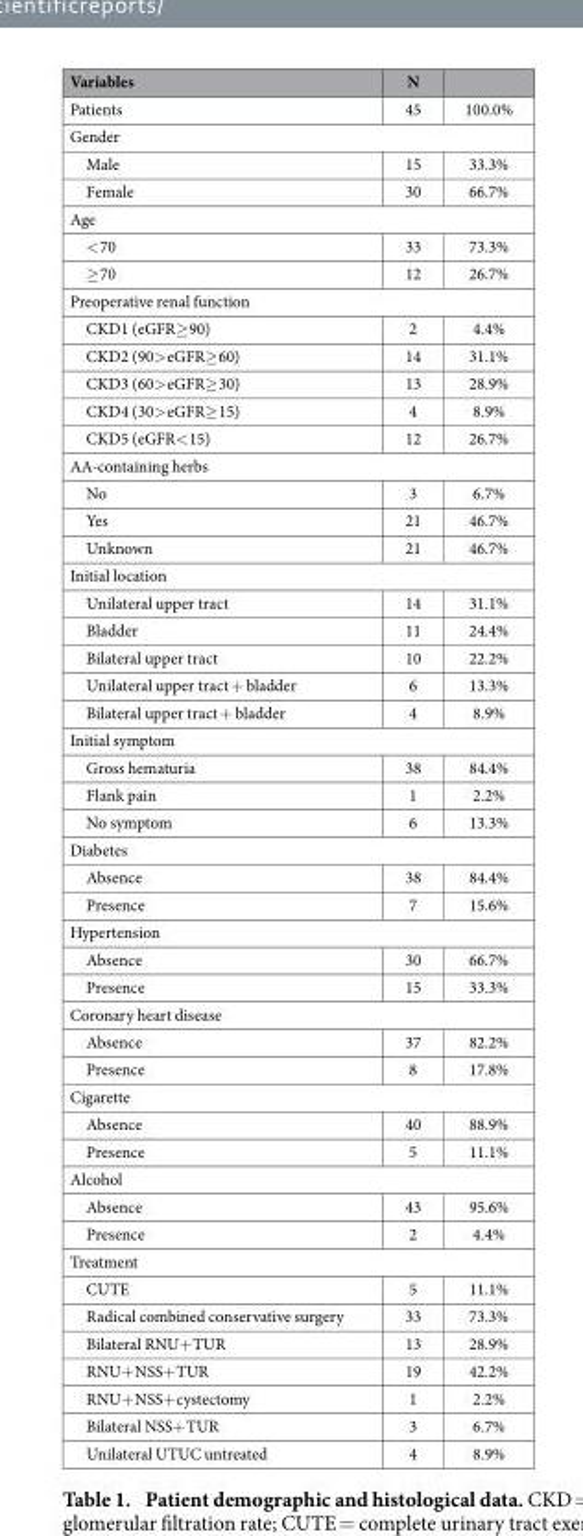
<table><thead><tr><td>Variables</td><td>N</td><td></td></tr></thead><tbody><tr><td>Patients</td><td>45</td><td>100.0%</td></tr><tr><td colspan="3">Gender</td></tr><tr><td>Male</td><td>15</td><td>33.3%</td></tr><tr><td>Female</td><td>30</td><td>66.7%</td></tr><tr><td colspan="3">Age</td></tr><tr><td>&lt; 70</td><td>33</td><td>73.3%</td></tr><tr><td>≥ 70</td><td>12</td><td>26.7%</td></tr><tr><td colspan="3">Preoperative renal function</td></tr><tr><td>CKD1 (eGFR≥ 90)</td><td>2</td><td>4.4%</td></tr><tr><td>CKD2 (90&gt; eGFR≥ 60)</td><td>14</td><td>31.1%</td></tr><tr><td>CKD3 (60&gt; eGFR≥ 30)</td><td>13</td><td>28.9%</td></tr><tr><td>CKD4 (30&gt; eGFR≥ 15)</td><td>4</td><td>8.9%</td></tr><tr><td>CKD5 (eGFR&lt; 15)</td><td>12</td><td>26.7%</td></tr><tr><td colspan="3">AA-containing herbs</td></tr><tr><td>No</td><td>3</td><td>6.7%</td></tr><tr><td>Yes</td><td>21</td><td>46.7%</td></tr><tr><td>Unknown</td><td>21</td><td>46.7%</td></tr><tr><td colspan="3">Initial location</td></tr><tr><td>Unilateral upper tract</td><td>14</td><td>31.1%</td></tr><tr><td>Bladder</td><td>11</td><td>24.4%</td></tr><tr><td>Bilateral upper tract</td><td>10</td><td>22.2%</td></tr><tr><td>Unilateral upper tract + bladder</td><td>6</td><td>13.3%</td></tr><tr><td>Bilateral upper tract + bladder</td><td>4</td><td>8.9%</td></tr><tr><td colspan="3">Initial symptom</td></tr><tr><td>Gross hematuria</td><td>38</td><td>84.4%</td></tr><tr><td>Flank pain</td><td>1</td><td>2.2%</td></tr><tr><td>No symptom</td><td>6</td><td>13.3%</td></tr><tr><td colspan="3">Diabetes</td></tr><tr><td>Absence</td><td>38</td><td>84.4%</td></tr><tr><td>Presence</td><td>7</td><td>15.6%</td></tr><tr><td colspan="3">Hypertension</td></tr><tr><td>Absence</td><td>30</td><td>66.7%</td></tr><tr><td>Presence</td><td>15</td><td>33.3%</td></tr><tr><td colspan="3">Coronary heart disease</td></tr><tr><td>Absence</td><td>37</td><td>82.2%</td></tr><tr><td>Presence</td><td>8</td><td>17.8%</td></tr><tr><td colspan="3">Cigarette</td></tr><tr><td>Absence</td><td>40</td><td>88.9%</td></tr><tr><td>Presence</td><td>5</td><td>11.1%</td></tr><tr><td colspan="3">Alcohol</td></tr><tr><td>Absence</td><td>43</td><td>95.6%</td></tr><tr><td>Presence</td><td>2</td><td>4.4%</td></tr><tr><td colspan="3">Treatment</td></tr><tr><td>CUTE</td><td>5</td><td>11.1%</td></tr><tr><td>Radical combined conservative surgery</td><td>33</td><td>73.3%</td></tr><tr><td>Bilateral RNU+ TUR</td><td>13</td><td>28.9%</td></tr><tr><td>RNU+ NSS+ TUR</td><td>19</td><td>42.2%</td></tr><tr><td>RNU+ NSS+ cystectomy</td><td>1</td><td>2.2%</td></tr><tr><td>Bilateral NSS+ TUR</td><td>3</td><td>6.7%</td></tr><tr><td>Unilateral UTUC untreated</td><td>4</td><td>8.9%</td></tr></tbody></table>